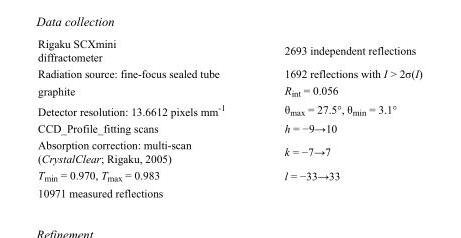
<table><tbody><tr><td>Rigaku SCXmini diffractometer</td><td>2693 independent reflections</td></tr><tr><td>Radiation source: fine-focus sealed tube</td><td>1692 reflections with I &gt; 2σ(I)</td></tr><tr><td>graphite</td><td>R<sub>int</sub> = 0.056</td></tr><tr><td>Detector resolution: 13.6612 pixels mm<sup>-1</sup></td><td>θ<sub>max</sub> = 27.5°, θ<sub>min</sub> = 3.1°</td></tr><tr><td>CCD_Profile_fitting scans</td><td>h = −9→10</td></tr><tr><td>Absorption correction: multi-scan (CrystalClear; Rigaku, 2005)</td><td>k = −7→7</td></tr><tr><td>T<sub>min</sub> = 0.970, T<sub>max</sub> = 0.983</td><td>l = −33→33</td></tr><tr><td>10971 measured reflections</td><td></td></tr></tbody></table>